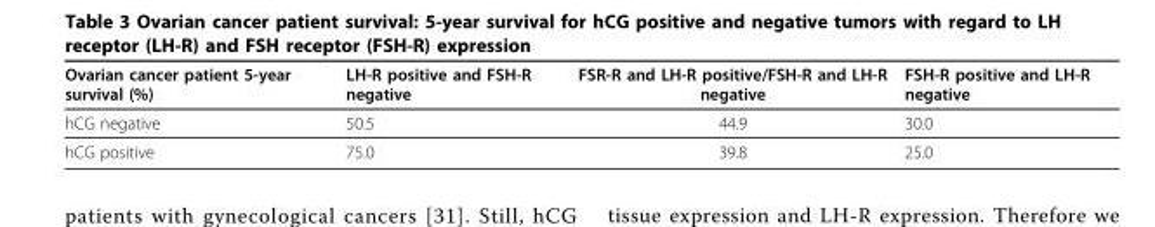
<table><thead><tr><td>Ovarian cancer patient 5-year survival (%)</td><td>LH-R positive and FSH-R negative</td><td>FSR-R and LH-R positive/FSH-R and LH-R negative</td><td>FSH-R positive and LH-R negative</td></tr></thead><tbody><tr><td>hCG negative</td><td>50.5</td><td>44.9</td><td>30.0</td></tr><tr><td>hCG positive</td><td>75.0</td><td>39.8</td><td>25.0</td></tr></tbody></table>